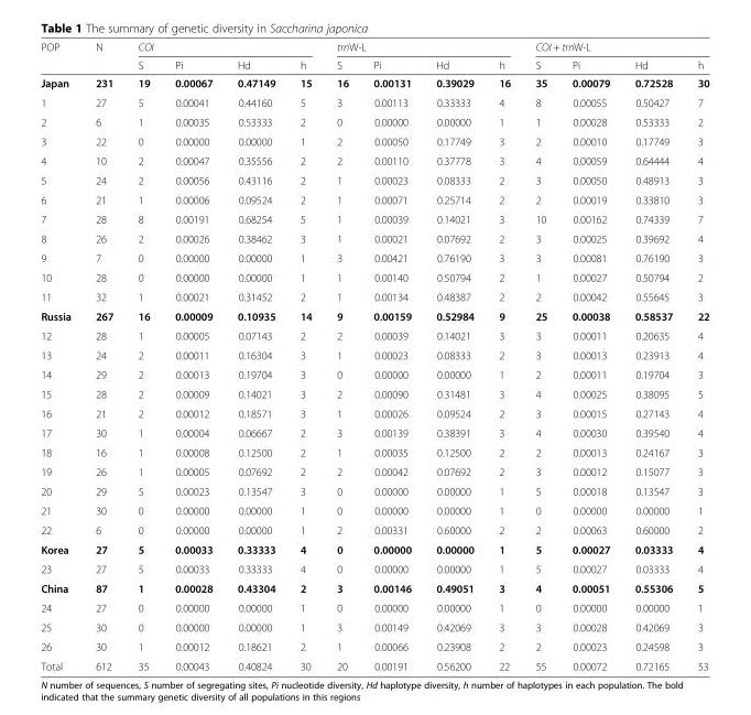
<table><thead><tr><td rowspan="2">POP</td><td rowspan="2">N</td><td colspan="4">COI</td><td colspan="4">trnW-L</td><td colspan="4">COI + trnW-L</td></tr><tr><td>S</td><td>Pi</td><td>Hd</td><td>h</td><td>S</td><td>Pi</td><td>Hd</td><td>h</td><td>S</td><td>Pi</td><td>Hd</td><td>h</td></tr></thead><tbody><tr><td>Japan</td><td>231</td><td>19</td><td>0.00067</td><td>0.47149</td><td>15</td><td>16</td><td>0.00131</td><td>0.39029</td><td>16</td><td>35</td><td>0.00079</td><td>0.72528</td><td>30</td></tr><tr><td>1</td><td>27</td><td>5</td><td>0.00041</td><td>0.44160</td><td>5</td><td>3</td><td>0.00113</td><td>0.33333</td><td>4</td><td>8</td><td>0.00055</td><td>0.50427</td><td>7</td></tr><tr><td>2</td><td>6</td><td>1</td><td>0.00035</td><td>0.53333</td><td>2</td><td>0</td><td>0.00000</td><td>0.00000</td><td>1</td><td>1</td><td>0.00028</td><td>0.53333</td><td>2</td></tr><tr><td>3</td><td>22</td><td>0</td><td>0.00000</td><td>0.00000</td><td>1</td><td>2</td><td>0.00050</td><td>0.17749</td><td>3</td><td>2</td><td>0.00010</td><td>0.17749</td><td>3</td></tr><tr><td>4</td><td>10</td><td>2</td><td>0.00047</td><td>0.35556</td><td>2</td><td>2</td><td>0.00110</td><td>0.37778</td><td>3</td><td>4</td><td>0.00059</td><td>0.64444</td><td>4</td></tr><tr><td>5</td><td>24</td><td>2</td><td>0.00056</td><td>0.43116</td><td>2</td><td>1</td><td>0.00023</td><td>0.08333</td><td>2</td><td>3</td><td>0.00050</td><td>0.48913</td><td>3</td></tr><tr><td>6</td><td>21</td><td>1</td><td>0.00006</td><td>0.09524</td><td>2</td><td>1</td><td>0.00071</td><td>0.25714</td><td>2</td><td>2</td><td>0.00019</td><td>0.33810</td><td>3</td></tr><tr><td>7</td><td>28</td><td>8</td><td>0.00191</td><td>0.68254</td><td>5</td><td>1</td><td>0.00039</td><td>0.14021</td><td>3</td><td>10</td><td>0.00162</td><td>0.74339</td><td>7</td></tr><tr><td>8</td><td>26</td><td>2</td><td>0.00026</td><td>0.38462</td><td>3</td><td>1</td><td>0.00021</td><td>0.07692</td><td>2</td><td>3</td><td>0.00025</td><td>0.39692</td><td>4</td></tr><tr><td>9</td><td>7</td><td>0</td><td>0.00000</td><td>0.00000</td><td>1</td><td>3</td><td>0.00421</td><td>0.76190</td><td>3</td><td>3</td><td>0.00081</td><td>0.76190</td><td>3</td></tr><tr><td>10</td><td>28</td><td>0</td><td>0.00000</td><td>0.00000</td><td>1</td><td>1</td><td>0.00140</td><td>0.50794</td><td>2</td><td>1</td><td>0.00027</td><td>0.50794</td><td>2</td></tr><tr><td>11</td><td>32</td><td>1</td><td>0.00021</td><td>0.31452</td><td>2</td><td>1</td><td>0.00134</td><td>0.48387</td><td>2</td><td>2</td><td>0.00042</td><td>0.55645</td><td>3</td></tr><tr><td>Russia</td><td>267</td><td>16</td><td>0.00009</td><td>0.10935</td><td>14</td><td>9</td><td>0.00159</td><td>0.52984</td><td>9</td><td>25</td><td>0.00038</td><td>0.58537</td><td>22</td></tr><tr><td>12</td><td>28</td><td>1</td><td>0.00005</td><td>0.07143</td><td>2</td><td>2</td><td>0.00039</td><td>0.14021</td><td>3</td><td>3</td><td>0.00011</td><td>0.20635</td><td>4</td></tr><tr><td>13</td><td>24</td><td>2</td><td>0.00011</td><td>0.16304</td><td>3</td><td>1</td><td>0.00023</td><td>0.08333</td><td>2</td><td>3</td><td>0.00013</td><td>0.23913</td><td>4</td></tr><tr><td>14</td><td>29</td><td>2</td><td>0.00013</td><td>0.19704</td><td>3</td><td>0</td><td>0.00000</td><td>0.00000</td><td>1</td><td>2</td><td>0.00011</td><td>0.19704</td><td>3</td></tr><tr><td>15</td><td>28</td><td>2</td><td>0.00009</td><td>0.14021</td><td>3</td><td>2</td><td>0.00090</td><td>0.31481</td><td>3</td><td>4</td><td>0.00025</td><td>0.38095</td><td>5</td></tr><tr><td>16</td><td>21</td><td>2</td><td>0.00012</td><td>0.18571</td><td>3</td><td>1</td><td>0.00026</td><td>0.09524</td><td>2</td><td>3</td><td>0.00015</td><td>0.27143</td><td>4</td></tr><tr><td>17</td><td>30</td><td>1</td><td>0.00004</td><td>0.06667</td><td>2</td><td>3</td><td>0.00139</td><td>0.38391</td><td>3</td><td>4</td><td>0.00030</td><td>0.39540</td><td>4</td></tr><tr><td>18</td><td>16</td><td>1</td><td>0.00008</td><td>0.12500</td><td>2</td><td>1</td><td>0.00035</td><td>0.12500</td><td>2</td><td>2</td><td>0.00013</td><td>0.24167</td><td>3</td></tr><tr><td>19</td><td>26</td><td>1</td><td>0.00005</td><td>0.07692</td><td>2</td><td>2</td><td>0.00042</td><td>0.07692</td><td>2</td><td>3</td><td>0.00012</td><td>0.15077</td><td>3</td></tr><tr><td>20</td><td>29</td><td>5</td><td>0.00023</td><td>0.13547</td><td>3</td><td>0</td><td>0.00000</td><td>0.00000</td><td>1</td><td>5</td><td>0.00018</td><td>0.13547</td><td>3</td></tr><tr><td>21</td><td>30</td><td>0</td><td>0.00000</td><td>0.00000</td><td>1</td><td>0</td><td>0.00000</td><td>0.00000</td><td>1</td><td>0</td><td>0.00000</td><td>0.00000</td><td>1</td></tr><tr><td>22</td><td>6</td><td>0</td><td>0.00000</td><td>0.00000</td><td>1</td><td>2</td><td>0.00331</td><td>0.60000</td><td>2</td><td>2</td><td>0.00063</td><td>0.60000</td><td>2</td></tr><tr><td>Korea</td><td>27</td><td>5</td><td>0.00033</td><td>0.33333</td><td>4</td><td>0</td><td>0.00000</td><td>0.00000</td><td>1</td><td>5</td><td>0.00027</td><td>0.03333</td><td>4</td></tr><tr><td>23</td><td>27</td><td>5</td><td>0.00033</td><td>0.33333</td><td>4</td><td>0</td><td>0.00000</td><td>0.00000</td><td>1</td><td>5</td><td>0.00027</td><td>0.03333</td><td>4</td></tr><tr><td>China</td><td>87</td><td>1</td><td>0.00028</td><td>0.43304</td><td>2</td><td>3</td><td>0.00146</td><td>0.49051</td><td>3</td><td>4</td><td>0.00051</td><td>0.55306</td><td>5</td></tr><tr><td>24</td><td>27</td><td>0</td><td>0.00000</td><td>0.00000</td><td>1</td><td>0</td><td>0.00000</td><td>0.00000</td><td>1</td><td>0</td><td>0.00000</td><td>0.00000</td><td>1</td></tr><tr><td>25</td><td>30</td><td>0</td><td>0.00000</td><td>0.00000</td><td>1</td><td>3</td><td>0.00149</td><td>0.42069</td><td>3</td><td>3</td><td>0.00028</td><td>0.42069</td><td>3</td></tr><tr><td>26</td><td>30</td><td>1</td><td>0.00012</td><td>0.18621</td><td>2</td><td>1</td><td>0.00066</td><td>0.23908</td><td>2</td><td>2</td><td>0.00023</td><td>0.24598</td><td>3</td></tr><tr><td>Total</td><td>612</td><td>35</td><td>0.00043</td><td>0.40824</td><td>30</td><td>20</td><td>0.00191</td><td>0.56200</td><td>22</td><td>55</td><td>0.00072</td><td>0.72165</td><td>53</td></tr></tbody></table>